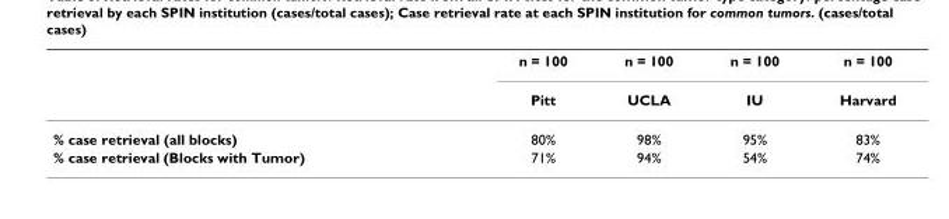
<table><thead><tr><td rowspan="2"></td><td rowspan="2">n = 100 Pitt</td><td rowspan="2">n = 100 UCLA</td><td rowspan="2">n = 100 IU</td><td rowspan="2">n = 100 Harvard</td></tr><tr></tr></thead><tbody><tr><td>% case retrieval (all blocks)</td><td>80%</td><td>98%</td><td>95%</td><td>83%</td></tr><tr><td>% case retrieval (Blocks with Tumor)</td><td>71%</td><td>94%</td><td>54%</td><td>74%</td></tr></tbody></table>